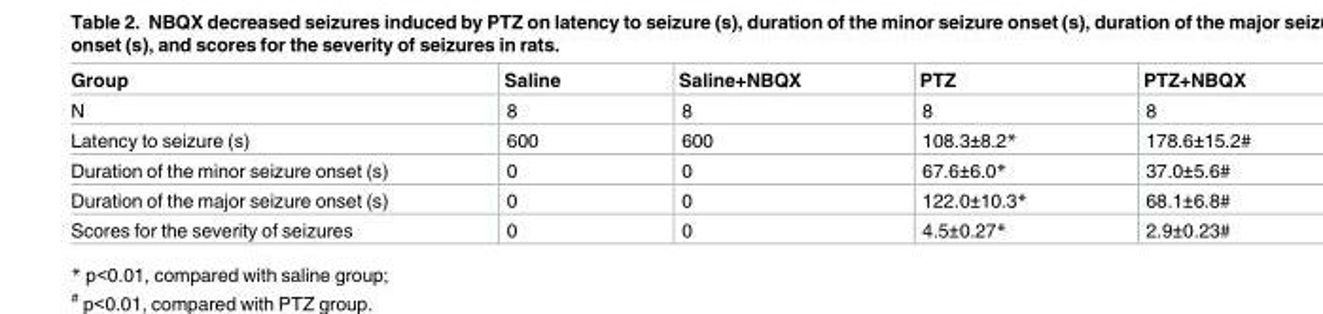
<table><thead><tr><td>Group</td><td>Saline</td><td>Saline+NBQX</td><td>PTZ</td><td>PTZ+NBQX</td></tr></thead><tbody><tr><td>N</td><td>8</td><td>8</td><td>8</td><td>8</td></tr><tr><td>Latency to seizure (s)</td><td>600</td><td>600</td><td>108.3±8.2*</td><td>178.6±15.2#</td></tr><tr><td>Duration of the minor seizure onset (s)</td><td>0</td><td>0</td><td>67.6±6.0*</td><td>37.0±5.6#</td></tr><tr><td>Duration of the major seizure onset (s)</td><td>0</td><td>0</td><td>122.0±10.3*</td><td>68.1±6.8#</td></tr><tr><td>Scores for the severity of seizures</td><td>0</td><td>0</td><td>4.5±0.27*</td><td>2.9±0.23#</td></tr></tbody></table>